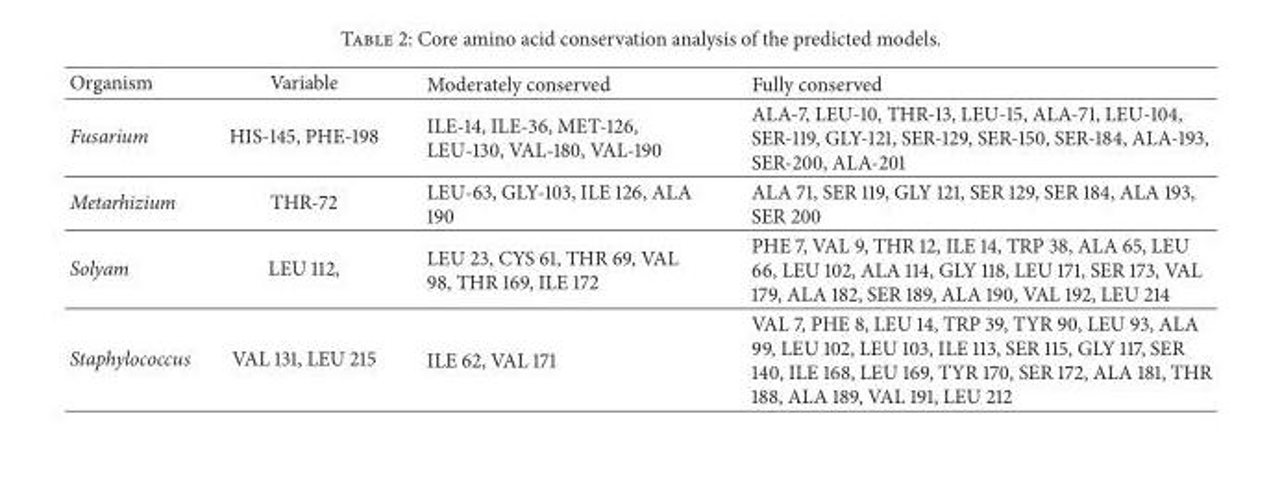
<table><thead><tr><td>Organism</td><td>Variable</td><td>Moderately conserved</td><td>Fully conserved</td></tr></thead><tbody><tr><td>Fusarium</td><td>HIS-145, PHE-198</td><td>ILE-14, ILE-36, MET-126, LEU-130, VAL-180, VAL-190</td><td>ALA-7, LEU-10, THR-13, LEU-15, ALA-71, LEU-104, SER-119, GLY-121, SER-129, SER-150, SER-184, ALA-193, SER-200, ALA-201</td></tr><tr><td>Metarhizium</td><td>THR-72</td><td>LEU-63, GLY-103, ILE 126, ALA 190</td><td>ALA 71, SER 119, GLY 121, SER 129, SER 184, ALA 193, SER 200</td></tr><tr><td>Solyam</td><td>LEU 112,</td><td>LEU 23, CYS 61, THR 69, VAL 98, THR 169, ILE 172</td><td>PHE 7, VAL 9, THR 12, ILE 14, TRP 38, ALA 65, LEU 66, LEU 102, ALA 114, GLY 118, LEU 171, SER 173, VAL 179, ALA 182, SER 189, ALA 190, VAL 192, LEU 214</td></tr><tr><td>Staphylococcus</td><td>VAL 131, LEU 215</td><td>ILE 62, VAL 171</td><td>VAL 7, PHE 8, LEU 14, TRP 39, TYR 90, LEU 93, ALA 99, LEU 102, LEU 103, ILE 113, SER 115, GLY 117, SER 140, ILE 168, LEU 169, TYR 170, SER 172, ALA 181, THR 188, ALA 189, VAL 191, LEU 212</td></tr></tbody></table>